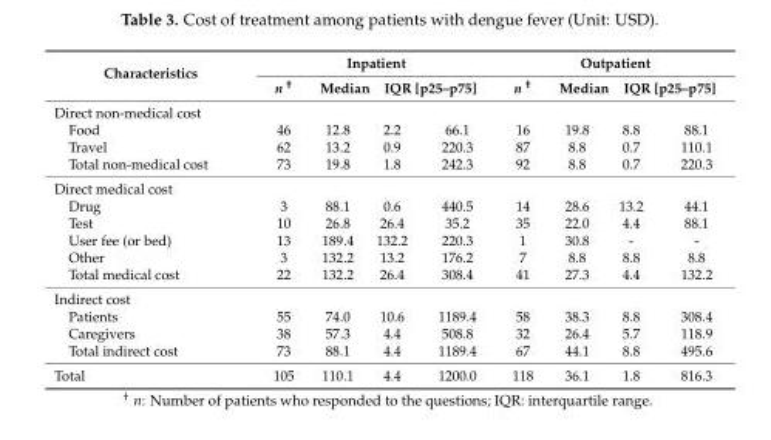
<table><thead><tr><td rowspan="3">Characteristics Direct non-medical cost</td><td colspan="4">Inpatient</td><td colspan="4">Outpatient</td></tr><tr><td rowspan="2">n <sup>†</sup></td><td rowspan="2">Median</td><td colspan="2">IQR [p25–p75]</td><td rowspan="2">n <sup>†</sup></td><td rowspan="2">Median</td><td colspan="2">IQR [p25–p75]</td></tr><tr><td></td><td></td><td></td><td></td></tr></thead><tbody><tr><td>Food</td><td>46</td><td>12.8</td><td>2.2</td><td>66.1</td><td>16</td><td>19.8</td><td>8.8</td><td>88.1</td></tr><tr><td>Travel</td><td>62</td><td>13.2</td><td>0.9</td><td>220.3</td><td>87</td><td>8.8</td><td>0.7</td><td>110.1</td></tr><tr><td>Total non-medical cost</td><td>73</td><td>19.8</td><td>1.8</td><td>242.3</td><td>92</td><td>8.8</td><td>0.7</td><td>220.3</td></tr><tr><td colspan="9">Direct medical cost</td></tr><tr><td>Drug</td><td>3</td><td>88.1</td><td>0.6</td><td>440.5</td><td>14</td><td>28.6</td><td>13.2</td><td>44.1</td></tr><tr><td>Test</td><td>10</td><td>26.8</td><td>26.4</td><td>35.2</td><td>35</td><td>22.0</td><td>4.4</td><td>88.1</td></tr><tr><td>User fee (or bed)</td><td>13</td><td>189.4</td><td>132.2</td><td>220.3</td><td>1</td><td>30.8</td><td>-</td><td>-</td></tr><tr><td>Other</td><td>3</td><td>132.2</td><td>13.2</td><td>176.2</td><td>7</td><td>8.8</td><td>8.8</td><td>8.8</td></tr><tr><td>Total medical cost</td><td>22</td><td>132.2</td><td>26.4</td><td>308.4</td><td>41</td><td>27.3</td><td>4.4</td><td>132.2</td></tr><tr><td colspan="9">Indirect cost</td></tr><tr><td>Patients</td><td>55</td><td>74.0</td><td>10.6</td><td>1189.4</td><td>58</td><td>38.3</td><td>8.8</td><td>308.4</td></tr><tr><td>Caregivers</td><td>38</td><td>57.3</td><td>4.4</td><td>508.8</td><td>32</td><td>26.4</td><td>5.7</td><td>118.9</td></tr><tr><td>Total indirect cost</td><td>73</td><td>88.1</td><td>4.4</td><td>1189.4</td><td>67</td><td>44.1</td><td>8.8</td><td>495.6</td></tr><tr><td>Total</td><td>105</td><td>110.1</td><td>4.4</td><td>1200.0</td><td>118</td><td>36.1</td><td>1.8</td><td>816.3</td></tr></tbody></table>